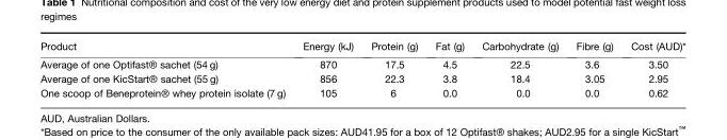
<table><thead><tr><td>Product</td><td>Energy (kJ)</td><td>Protein (g)</td><td>Fat (g)</td><td>Carbohydrate (g)</td><td>Fibre (g)</td><td>Cost (AUD)*</td></tr></thead><tbody><tr><td>Average of one Optifast® sachet (54 g)</td><td>870</td><td>17.5</td><td>4.5</td><td>22.5</td><td>3.6</td><td>3.50</td></tr><tr><td>Average of one KicStart® sachet (55 g)</td><td>856</td><td>22.3</td><td>3.8</td><td>18.4</td><td>3.05</td><td>2.95</td></tr><tr><td>One scoop of Beneprotein® whey protein isolate (7 g)</td><td>105</td><td>6</td><td>0.0</td><td>0.0</td><td>0.0</td><td>0.62</td></tr></tbody></table>